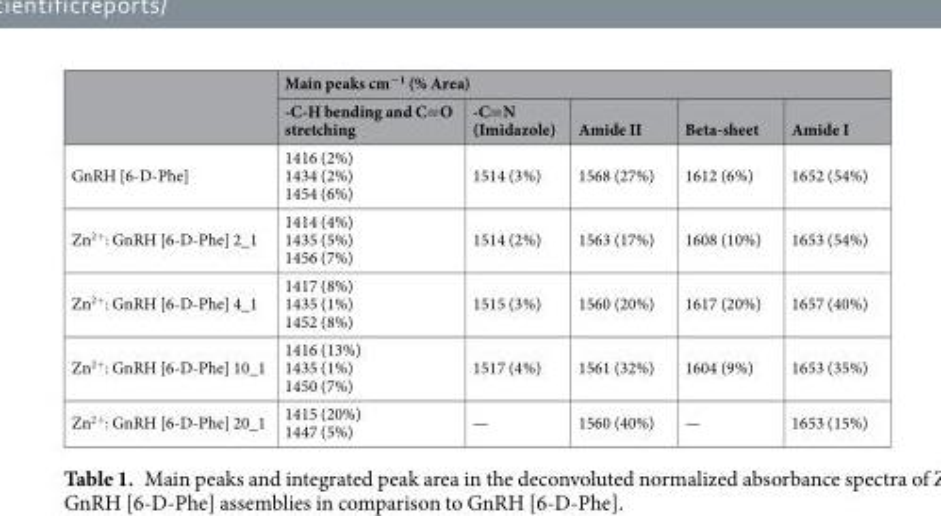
<table><thead><tr><td rowspan="2"></td><td colspan="5">Main peaks cm<sup>−1</sup> (% Area)</td></tr><tr><td>-C-H bending and C=O stretching</td><td>-C=N (Imidazole)</td><td>Amide II</td><td>Beta-sheet</td><td>Amide I</td></tr></thead><tbody><tr><td>GnRH [6-D-Phe]</td><td>1416 (2%) 1434 (2%) 1454 (6%)</td><td>1514 (3%)</td><td>1568 (27%)</td><td>1612 (6%)</td><td>1652 (54%)</td></tr><tr><td>Zn<sup>2+</sup>: GnRH [6-D-Phe] 2_1</td><td>1414 (4%) 1435 (5%) 1456 (7%)</td><td>1514 (2%)</td><td>1563 (17%)</td><td>1608 (10%)</td><td>1653 (54%)</td></tr><tr><td>Zn<sup>2+</sup>: GnRH [6-D-Phe] 4_1</td><td>1417 (8%) 1435 (1%) 1452 (8%)</td><td>1515 (3%)</td><td>1560 (20%)</td><td>1617 (20%)</td><td>1657 (40%)</td></tr><tr><td>Zn<sup>2+</sup>: GnRH [6-D-Phe] 10_1</td><td>1416 (13%) 1435 (1%) 1450 (7%)</td><td>1517 (4%)</td><td>1561 (32%)</td><td>1604 (9%)</td><td>1653 (35%)</td></tr><tr><td>Zn<sup>2+</sup>: GnRH [6-D-Phe] 20_1</td><td>1415 (20%) 1447 (5%)</td><td>—</td><td>1560 (40%)</td><td>—</td><td>1653 (15%)</td></tr></tbody></table>